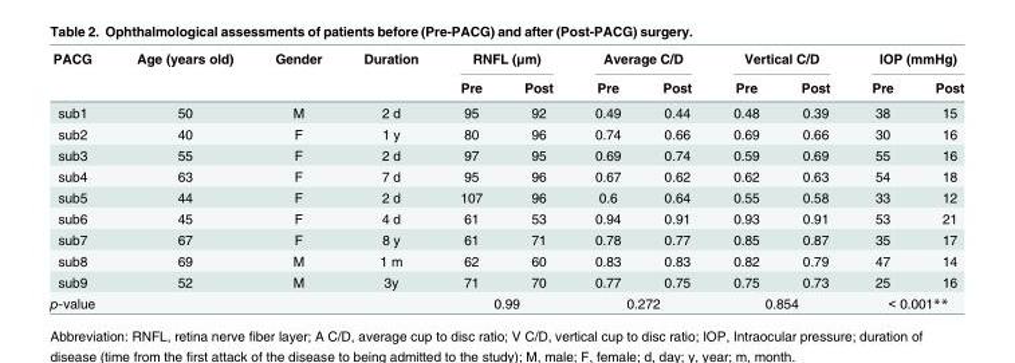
<table><thead><tr><td rowspan="2">PACG</td><td rowspan="2">Age (years old)</td><td rowspan="2">Gender</td><td rowspan="2">Duration</td><td colspan="2">RNFL (μm)</td><td colspan="2">Average C/D</td><td colspan="2">Vertical C/D</td><td colspan="2">IOP (mmHg)</td></tr><tr><td>Pre</td><td>Post</td><td>Pre</td><td>Post</td><td>Pre</td><td>Post</td><td>Pre</td><td>Post</td></tr></thead><tbody><tr><td>sub1</td><td>50</td><td>M</td><td>2 d</td><td>95</td><td>92</td><td>0.49</td><td>0.44</td><td>0.48</td><td>0.39</td><td>38</td><td>15</td></tr><tr><td>sub2</td><td>40</td><td>F</td><td>1 y</td><td>80</td><td>96</td><td>0.74</td><td>0.66</td><td>0.69</td><td>0.66</td><td>30</td><td>16</td></tr><tr><td>sub3</td><td>55</td><td>F</td><td>2 d</td><td>97</td><td>95</td><td>0.69</td><td>0.74</td><td>0.59</td><td>0.69</td><td>55</td><td>16</td></tr><tr><td>sub4</td><td>63</td><td>F</td><td>7 d</td><td>95</td><td>96</td><td>0.67</td><td>0.62</td><td>0.62</td><td>0.63</td><td>54</td><td>18</td></tr><tr><td>sub5</td><td>44</td><td>F</td><td>2 d</td><td>107</td><td>96</td><td>0.6</td><td>0.64</td><td>0.55</td><td>0.58</td><td>33</td><td>12</td></tr><tr><td>sub6</td><td>45</td><td>F</td><td>4 d</td><td>61</td><td>53</td><td>0.94</td><td>0.91</td><td>0.93</td><td>0.91</td><td>53</td><td>21</td></tr><tr><td>sub7</td><td>67</td><td>F</td><td>8 y</td><td>61</td><td>71</td><td>0.78</td><td>0.77</td><td>0.85</td><td>0.87</td><td>35</td><td>17</td></tr><tr><td>sub8</td><td>69</td><td>M</td><td>1 m</td><td>62</td><td>60</td><td>0.83</td><td>0.83</td><td>0.82</td><td>0.79</td><td>47</td><td>14</td></tr><tr><td>sub9</td><td>52</td><td>M</td><td>3y</td><td>71</td><td>70</td><td>0.77</td><td>0.75</td><td>0.75</td><td>0.73</td><td>25</td><td>16</td></tr><tr><td>p-value</td><td></td><td></td><td></td><td colspan="2">0.99</td><td colspan="2">0.272</td><td colspan="2">0.854</td><td colspan="2">&lt; 0.001**</td></tr></tbody></table>